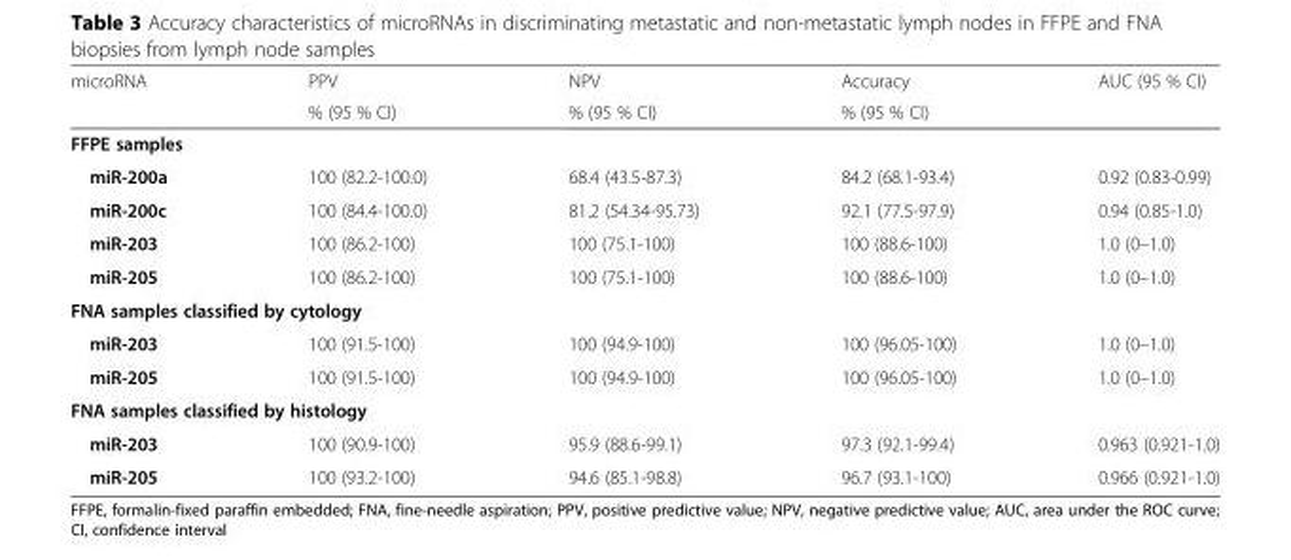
<table><thead><tr><td rowspan="2">microRNA</td><td rowspan="2">PPV % (95 % CI)</td><td rowspan="2">NPV % (95 % CI)</td><td rowspan="2">Accuracy % (95 % CI)</td><td rowspan="2">AUC (95 % CI)</td></tr><tr></tr></thead><tbody><tr><td colspan="5">FFPE samples</td></tr><tr><td>miR-200a</td><td>100 (82.2-100.0)</td><td>68.4 (43.5-87.3)</td><td>84.2 (68.1-93.4)</td><td>0.92 (0.83-0.99)</td></tr><tr><td>miR-200c</td><td>100 (84.4-100.0)</td><td>81.2 (54.34-95.73)</td><td>92.1 (77.5-97.9)</td><td>0.94 (0.85-1.0)</td></tr><tr><td>miR-203</td><td>100 (86.2-100)</td><td>100 (75.1-100)</td><td>100 (88.6-100)</td><td>1.0 (0–1.0)</td></tr><tr><td>miR-205</td><td>100 (86.2-100)</td><td>100 (75.1-100)</td><td>100 (88.6-100)</td><td>1.0 (0–1.0)</td></tr><tr><td colspan="5">FNA samples classified by cytology</td></tr><tr><td>miR-203</td><td>100 (91.5-100)</td><td>100 (94.9-100)</td><td>100 (96.05-100)</td><td>1.0 (0–1.0)</td></tr><tr><td>miR-205</td><td>100 (91.5-100)</td><td>100 (94.9-100)</td><td>100 (96.05-100)</td><td>1.0 (0–1.0)</td></tr><tr><td colspan="5">FNA samples classified by histology</td></tr><tr><td>miR-203</td><td>100 (90.9-100)</td><td>95.9 (88.6-99.1)</td><td>97.3 (92.1-99.4)</td><td>0.963 (0.921-1.0)</td></tr><tr><td>miR-205</td><td>100 (93.2-100)</td><td>94.6 (85.1-98.8)</td><td>96.7 (93.1-100)</td><td>0.966 (0.921-1.0)</td></tr></tbody></table>